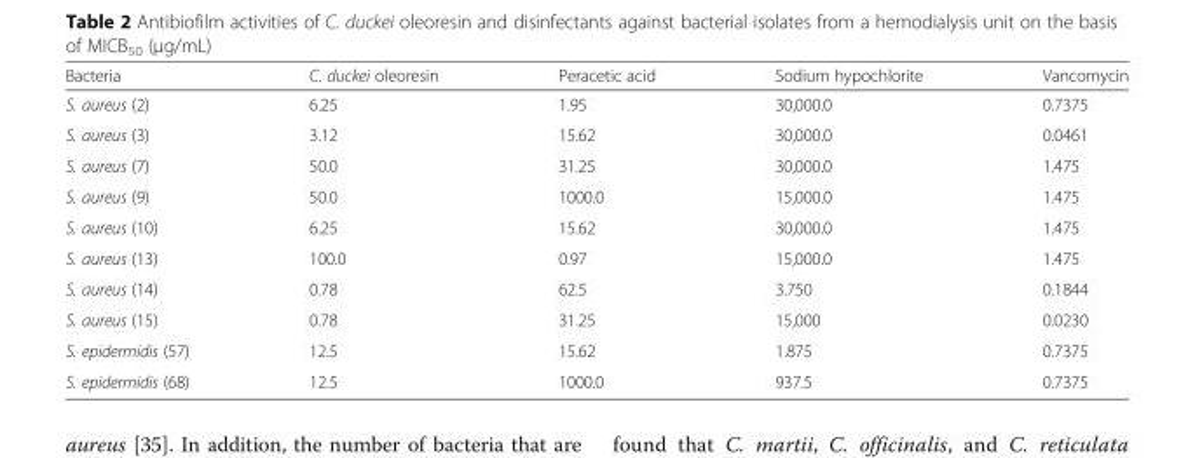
<table><thead><tr><td>Bacteria</td><td>C. duckei oleoresin</td><td>Peracetic acid</td><td>Sodium hypochlorite</td><td>Vancomycin</td></tr></thead><tbody><tr><td>S. aureus (2)</td><td>6.25</td><td>1.95</td><td>30,000.0</td><td>0.7375</td></tr><tr><td>S. aureus (3)</td><td>3.12</td><td>15.62</td><td>30,000.0</td><td>0.0461</td></tr><tr><td>S. aureus (7)</td><td>50.0</td><td>31.25</td><td>30,000.0</td><td>1.475</td></tr><tr><td>S. aureus (9)</td><td>50.0</td><td>1000.0</td><td>15,000.0</td><td>1.475</td></tr><tr><td>S. aureus (10)</td><td>6.25</td><td>15.62</td><td>30,000.0</td><td>1.475</td></tr><tr><td>S. aureus (13)</td><td>100.0</td><td>0.97</td><td>15,000.0</td><td>1.475</td></tr><tr><td>S. aureus (14)</td><td>0.78</td><td>62.5</td><td>3.750</td><td>0.1844</td></tr><tr><td>S. aureus (15)</td><td>0.78</td><td>31.25</td><td>15,000</td><td>0.0230</td></tr><tr><td>S. epidermidis (57)</td><td>12.5</td><td>15.62</td><td>1.875</td><td>0.7375</td></tr><tr><td>S. epidermidis (68)</td><td>12.5</td><td>1000.0</td><td>937.5</td><td>0.7375</td></tr></tbody></table>